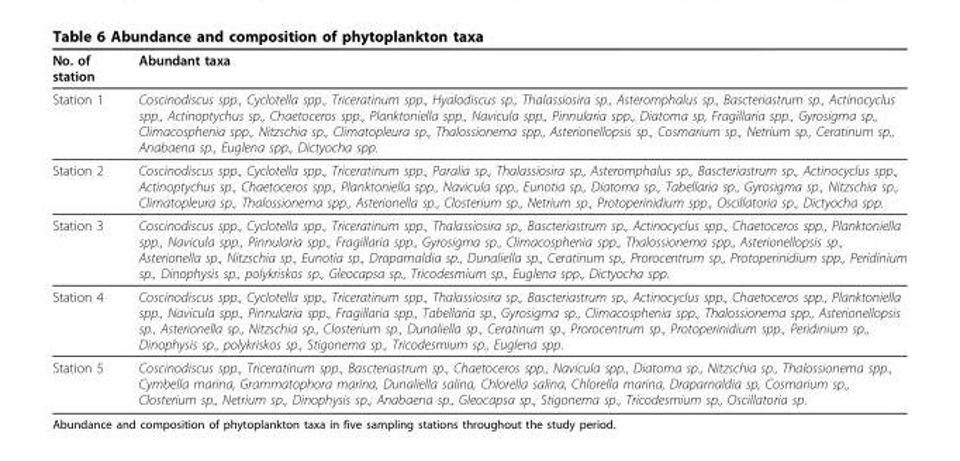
<table><thead><tr><td>No. of station</td><td>Abundant taxa</td></tr></thead><tbody><tr><td>Station 1</td><td>Coscinodiscus spp., Cyclotella spp., Triceratinum spp., Hyalodiscus sp., Thalassiosira sp., Asteromphalus sp., Bascteriastrum sp., Actinocyclus spp., Actinoptychus sp., Chaetoceros spp., Planktoniella spp., Navicula spp., Pinnularia spp., Diatoma sp, Fragillaria spp., Gyrosigma sp., Climacosphenia spp., Nitzschia sp., Climatopleura sp., Thalossionema spp., Asterionellopsis sp., Cosmarium sp., Netrium sp., Ceratinum sp., Anabaena sp., Euglena spp., Dictyocha spp.</td></tr><tr><td>Station 2</td><td>Coscinodiscus spp., Cyclotella spp., Triceratinum spp., Paralia sp., Thalassiosira sp., Asteromphalus sp., Bascteriastrum sp., Actinocyclus spp., Actinoptychus sp., Chaetoceros spp., Planktoniella spp., Navicula spp., Eunotia sp., Diatoma sp., Tabellaria sp., Gyrosigma sp., Nitzschia sp., Climatopleura sp., Thalossionema spp., Asterionella sp., Closterium sp., Netrium sp., Protoperinidium spp., Oscillatoria sp., Dictyocha spp.</td></tr><tr><td>Station 3</td><td>Coscinodiscus spp., Cyclotella spp., Triceratinum spp., Thalassiosira sp., Bascteriastrum sp., Actinocyclus spp., Chaetoceros spp., Planktoniella spp., Navicula spp., Pinnularia spp., Fragillaria spp., Gyrosigma sp., Climacosphenia spp., Thalossionema spp., Asterionellopsis sp., Asterionella sp., Nitzschia sp., Eunotia sp., Draparnaldia sp., Dunaliella sp., Ceratinum sp., Prorocentrum sp., Protoperinidium spp., Peridinium sp., Dinophysis sp., polykriskos sp., Gleocapsa sp., Tricodesmium sp., Euglena spp., Dictyocha spp.</td></tr><tr><td>Station 4</td><td>Coscinodiscus spp., Cyclotella spp., Triceratinum spp., Thalassiosira sp., Bascteriastrum sp., Actinocyclus spp., Chaetoceros spp., Planktoniella spp., Navicula spp., Pinnularia spp., Fragillaria spp., Tabellaria sp., Gyrosigma sp., Climacosphenia spp., Thalossionema spp., Asterionellopsis sp., Asterionella sp., Nitzschia sp., Closterium sp., Dunaliella sp., Ceratinum sp., Prorocentrum sp., Protoperinidium spp., Peridinium sp., Dinophysis sp., polykriskos sp., Stigonema sp., Tricodesmium sp., Euglena spp.</td></tr><tr><td>Station 5</td><td>Coscinodiscus spp., Triceratinum spp., Bascteriastrum sp., Chaetoceros spp., Navicula spp., Diatoma sp., Nitzschia sp., Thalossionema spp., Cymbella marina, Grammatophora marina, Dunaliella salina, Chlorella salina, Chlorella marina, Draparnaldia sp, Cosmarium sp., Closterium sp., Netrium sp., Dinophysis sp., Anabaena sp., Gleocapsa sp., Stigonema sp., Tricodesmium sp., Oscillatoria sp.</td></tr></tbody></table>